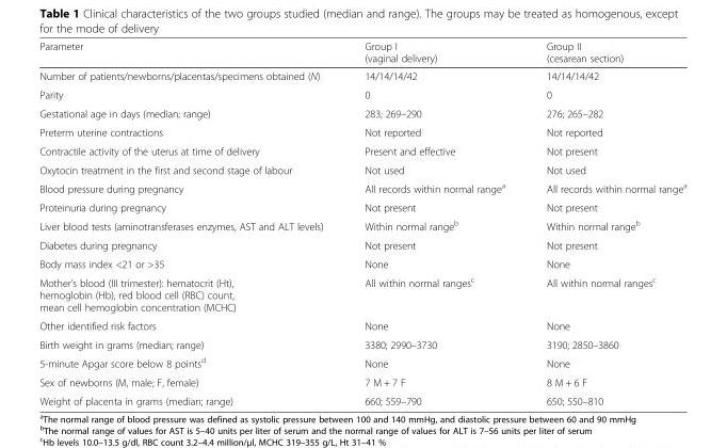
<table><thead><tr><td>Parameter</td><td>Group I (vaginal delivery)</td><td>Group II (cesarean section)</td></tr></thead><tbody><tr><td>Number of patients/newborns/placentas/specimens obtained (N)</td><td>14/14/14/42</td><td>14/14/14/42</td></tr><tr><td>Parity</td><td>0</td><td>0</td></tr><tr><td>Gestational age in days (median; range)</td><td>283; 269–290</td><td>276; 265–282</td></tr><tr><td>Preterm uterine contractions</td><td>Not reported</td><td>Not reported</td></tr><tr><td>Contractile activity of the uterus at time of delivery</td><td>Present and effective</td><td>Not present</td></tr><tr><td>Oxytocin treatment in the first and second stage of labour</td><td>Not used</td><td>Not used</td></tr><tr><td>Blood pressure during pregnancy</td><td>All records within normal range<sup>a</sup></td><td>All records within normal range<sup>a</sup></td></tr><tr><td>Proteinuria during pregnancy</td><td>Not present</td><td>Not present</td></tr><tr><td>Liver blood tests (aminotransferases enzymes, AST and ALT levels)</td><td>Within normal range<sup>b</sup></td><td>Within normal range<sup>b</sup></td></tr><tr><td>Diabetes during pregnancy</td><td>Not present</td><td>Not present</td></tr><tr><td>Body mass index &lt;21 or &gt;35</td><td>None</td><td>None</td></tr><tr><td>Mother’s blood (III trimester): hematocrit (Ht), hemoglobin (Hb), red blood cell (RBC) count, mean cell hemoglobin concentration (MCHC)</td><td>All within normal ranges<sup>c</sup></td><td>All within normal ranges<sup>c</sup></td></tr><tr><td>Other identified risk factors</td><td>None</td><td>None</td></tr><tr><td>Birth weight in grams (median; range)</td><td>3380; 2990–3730</td><td>3190; 2850–3860</td></tr><tr><td>5-minute Apgar score below 8 points<sup>d</sup></td><td>None</td><td>None</td></tr><tr><td>Sex of newborns (M, male; F, female)</td><td>7 M + 7 F</td><td>8 M + 6 F</td></tr><tr><td>Weight of placenta in grams (median; range)</td><td>660; 559–790</td><td>650; 550–810</td></tr></tbody></table>